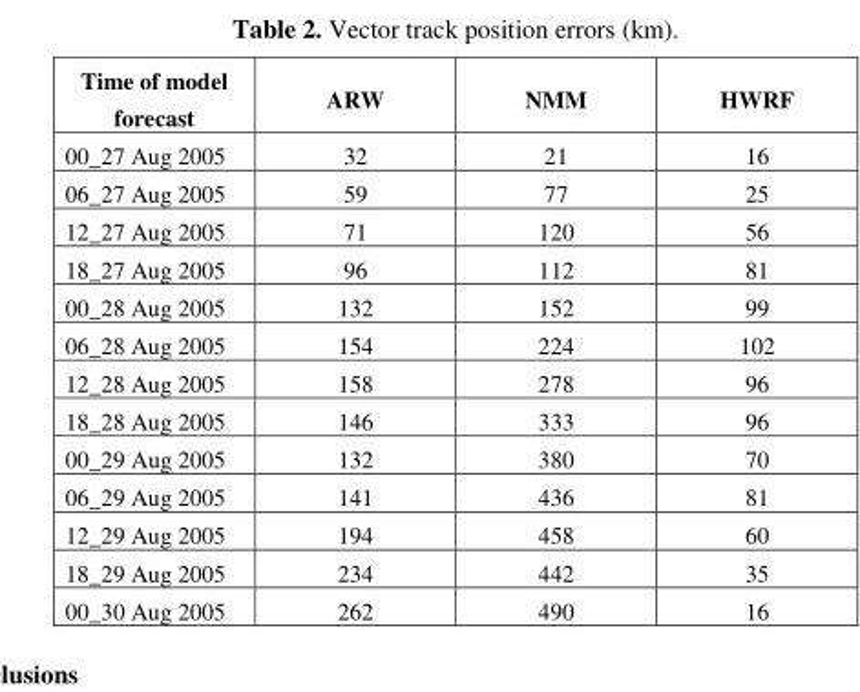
<table><thead><tr><td>Time of model forecast</td><td>ARW</td><td>NMM</td><td>HWRF</td></tr></thead><tbody><tr><td>00_27 Aug 2005</td><td>32</td><td>21</td><td>16</td></tr><tr><td>06_27 Aug 2005</td><td>59</td><td>77</td><td>25</td></tr><tr><td>12_27 Aug 2005</td><td>71</td><td>120</td><td>56</td></tr><tr><td>18_27 Aug 2005</td><td>96</td><td>112</td><td>81</td></tr><tr><td>00_28 Aug 2005</td><td>132</td><td>152</td><td>99</td></tr><tr><td>06_28 Aug 2005</td><td>154</td><td>224</td><td>102</td></tr><tr><td>12_28 Aug 2005</td><td>158</td><td>278</td><td>96</td></tr><tr><td>18_28 Aug 2005</td><td>146</td><td>333</td><td>96</td></tr><tr><td>00_29 Aug 2005</td><td>132</td><td>380</td><td>70</td></tr><tr><td>06_29 Aug 2005</td><td>141</td><td>436</td><td>81</td></tr><tr><td>12_29 Aug 2005</td><td>194</td><td>458</td><td>60</td></tr><tr><td>18_29 Aug 2005</td><td>234</td><td>442</td><td>35</td></tr><tr><td>00_30 Aug 2005</td><td>262</td><td>490</td><td>16</td></tr></tbody></table>